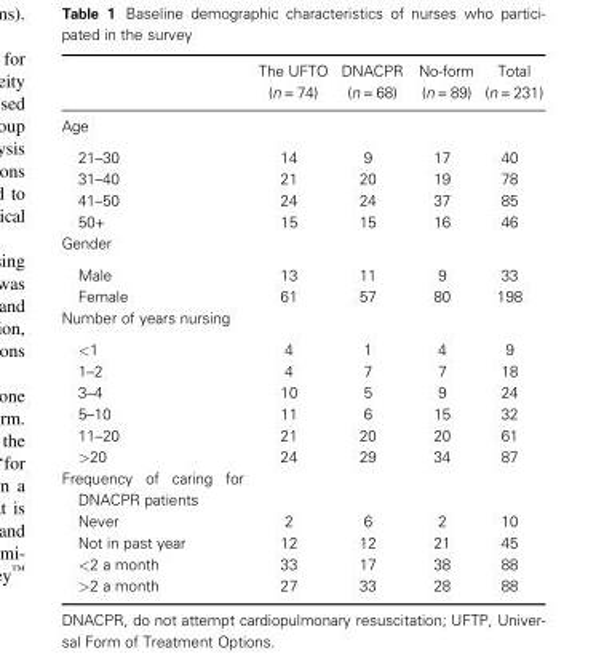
<table><thead><tr><td></td><td>The UFTO (n = 74)</td><td>DNACPR (n = 68)</td><td>No-form (n = 89)</td><td>Total (n = 231)</td></tr></thead><tbody><tr><td colspan="5">Age</td></tr><tr><td>21–30</td><td>14</td><td>9</td><td>17</td><td>40</td></tr><tr><td>31–40</td><td>21</td><td>20</td><td>19</td><td>78</td></tr><tr><td>41–50</td><td>24</td><td>24</td><td>37</td><td>85</td></tr><tr><td>50+</td><td>15</td><td>15</td><td>16</td><td>46</td></tr><tr><td colspan="5">Gender</td></tr><tr><td>Male</td><td>13</td><td>11</td><td>9</td><td>33</td></tr><tr><td>Female</td><td>61</td><td>57</td><td>80</td><td>198</td></tr><tr><td colspan="5">Number of years nursing</td></tr><tr><td>&lt;1</td><td>4</td><td>1</td><td>4</td><td>9</td></tr><tr><td>1–2</td><td>4</td><td>7</td><td>7</td><td>18</td></tr><tr><td>3–4</td><td>10</td><td>5</td><td>9</td><td>24</td></tr><tr><td>5–10</td><td>11</td><td>6</td><td>15</td><td>32</td></tr><tr><td>11–20</td><td>21</td><td>20</td><td>20</td><td>61</td></tr><tr><td>&gt;20</td><td>24</td><td>29</td><td>34</td><td>87</td></tr><tr><td colspan="5">Frequency of caring for DNACPR patients</td></tr><tr><td>Never</td><td>2</td><td>6</td><td>2</td><td>10</td></tr><tr><td>Not in past year</td><td>12</td><td>12</td><td>21</td><td>45</td></tr><tr><td>&lt;2 a month</td><td>33</td><td>17</td><td>38</td><td>88</td></tr><tr><td>&gt;2 a month</td><td>27</td><td>33</td><td>28</td><td>88</td></tr></tbody></table>